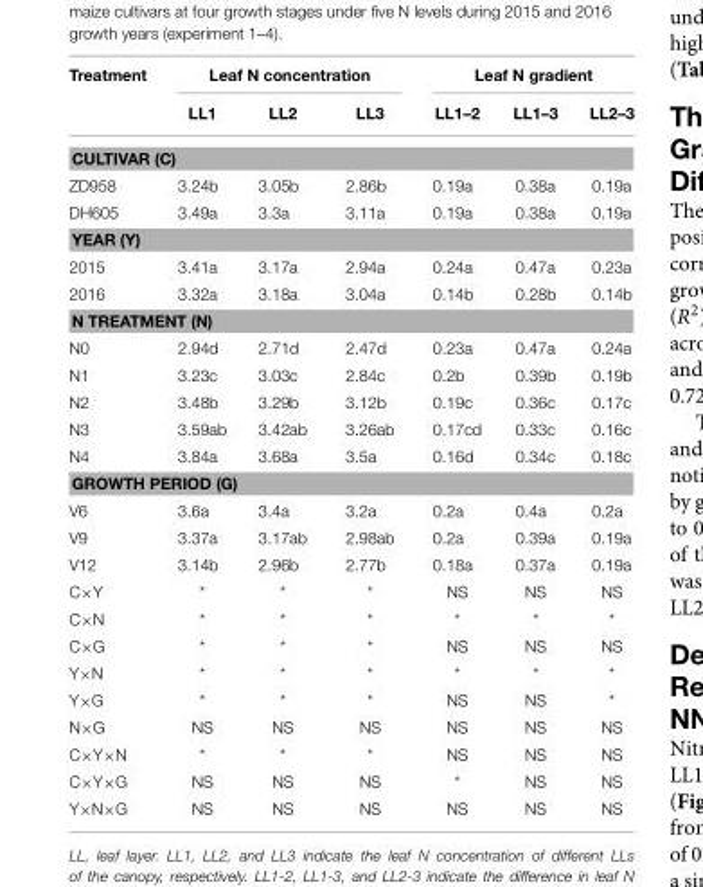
<table><thead><tr><td rowspan="2">Treatment</td><td colspan="3">Leaf N concentration</td><td colspan="3">Leaf N gradient</td></tr><tr><td>LL1</td><td>LL2</td><td>LL3</td><td>LL1–2</td><td>LL1–3</td><td>LL2–3</td></tr></thead><tbody><tr><td colspan="7">CULTIVAR (C)</td></tr><tr><td>ZD958</td><td>3.24b</td><td>3.05b</td><td>2.86b</td><td>0.19a</td><td>0.38a</td><td>0.19a</td></tr><tr><td>DH605</td><td>3.49a</td><td>3.3a</td><td>3.11a</td><td>0.19a</td><td>0.38a</td><td>0.19a</td></tr><tr><td colspan="7">YEAR (Y)</td></tr><tr><td>2015</td><td>3.41a</td><td>3.17a</td><td>2.94a</td><td>0.24a</td><td>0.47a</td><td>0.23a</td></tr><tr><td>2016</td><td>3.32a</td><td>3.18a</td><td>3.04a</td><td>0.14b</td><td>0.28b</td><td>0.14b</td></tr><tr><td colspan="7">N TREATMENT (N)</td></tr><tr><td>N0</td><td>2.94d</td><td>2.71d</td><td>2.47d</td><td>0.23a</td><td>0.47a</td><td>0.24a</td></tr><tr><td>N1</td><td>3.23c</td><td>3.03c</td><td>2.84c</td><td>0.2b</td><td>0.39b</td><td>0.19b</td></tr><tr><td>N2</td><td>3.48b</td><td>3.29b</td><td>3.12b</td><td>0.19c</td><td>0.36c</td><td>0.17c</td></tr><tr><td>N3</td><td>3.59ab</td><td>3.42ab</td><td>3.26ab</td><td>0.17cd</td><td>0.33c</td><td>0.16c</td></tr><tr><td>N4</td><td>3.84a</td><td>3.68a</td><td>3.5a</td><td>0.16d</td><td>0.34c</td><td>0.18c</td></tr><tr><td colspan="7">GROWTH PERIOD (G)</td></tr><tr><td>V6</td><td>3.6a</td><td>3.4a</td><td>3.2a</td><td>0.2a</td><td>0.4a</td><td>0.2a</td></tr><tr><td>V9</td><td>3.37a</td><td>3.17ab</td><td>2.98ab</td><td>0.2a</td><td>0.39a</td><td>0.19a</td></tr><tr><td>V12</td><td>3.14b</td><td>2.96b</td><td>2.77b</td><td>0.18a</td><td>0.37a</td><td>0.19a</td></tr><tr><td>C×Y</td><td>*</td><td>*</td><td>*</td><td>NS</td><td>NS</td><td>NS</td></tr><tr><td>C×N</td><td>*</td><td>*</td><td>*</td><td>*</td><td>*</td><td>*</td></tr><tr><td>C×G</td><td>*</td><td>*</td><td>*</td><td>NS</td><td>NS</td><td>NS</td></tr><tr><td>Y×N</td><td>*</td><td>*</td><td>*</td><td>*</td><td>*</td><td>*</td></tr><tr><td>Y×G</td><td>*</td><td>*</td><td>*</td><td>NS</td><td>NS</td><td>*</td></tr><tr><td>N×G</td><td>NS</td><td>NS</td><td>NS</td><td>NS</td><td>NS</td><td>NS</td></tr><tr><td>C×Y×N</td><td>*</td><td>*</td><td>*</td><td>NS</td><td>NS</td><td>NS</td></tr><tr><td>C×Y×G</td><td>NS</td><td>NS</td><td>NS</td><td>*</td><td>NS</td><td>NS</td></tr><tr><td>Y×N×G</td><td>NS</td><td>NS</td><td>NS</td><td>NS</td><td>NS</td><td>NS</td></tr></tbody></table>